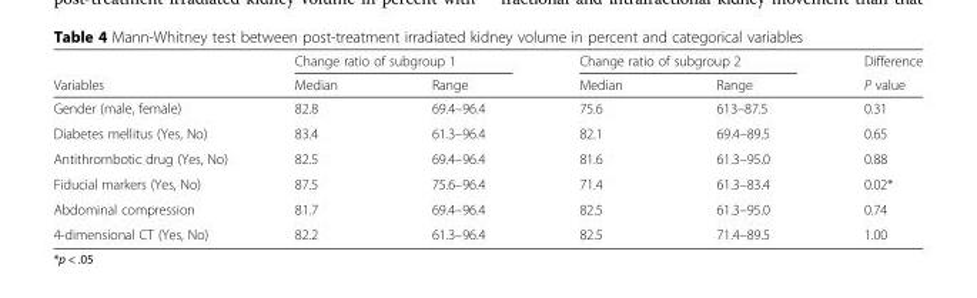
<table><thead><tr><td rowspan="2">Variables</td><td colspan="2">Change ratio of subgroup 1</td><td colspan="2">Change ratio of subgroup 2</td><td rowspan="2">Difference P value</td></tr><tr><td>Median</td><td>Range</td><td>Median</td><td>Range</td></tr></thead><tbody><tr><td>Gender (male, female)</td><td>82.8</td><td>69.4–96.4</td><td>75.6</td><td>613–87.5</td><td>0.31</td></tr><tr><td>Diabetes mellitus (Yes, No)</td><td>83.4</td><td>61.3–96.4</td><td>82.1</td><td>69.4–89.5</td><td>0.65</td></tr><tr><td>Antithrombotic drug (Yes, No)</td><td>82.5</td><td>69.4–96.4</td><td>81.6</td><td>61.3–95.0</td><td>0.88</td></tr><tr><td>Fiducial markers (Yes, No)</td><td>87.5</td><td>75.6–96.4</td><td>71.4</td><td>61.3–83.4</td><td>0.02*</td></tr><tr><td>Abdominal compression</td><td>81.7</td><td>69.4–96.4</td><td>82.5</td><td>61.3–95.0</td><td>0.74</td></tr><tr><td>4-dimensional CT (Yes, No)</td><td>82.2</td><td>61.3–96.4</td><td>82.5</td><td>71.4–89.5</td><td>1.00</td></tr></tbody></table>